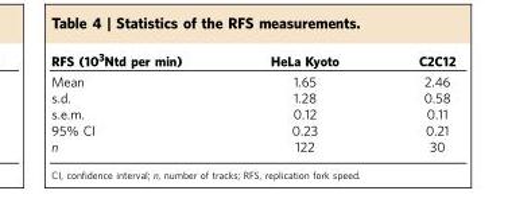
<table><thead><tr><td>RFS (10<sup>3</sup>Ntd per min)</td><td>HeLa Kyoto</td><td>C2C12</td></tr></thead><tbody><tr><td>Mean</td><td>1.65</td><td>2.46</td></tr><tr><td>s.d.</td><td>1.28</td><td>0.58</td></tr><tr><td>s.e.m.</td><td>0.12</td><td>0.11</td></tr><tr><td>95% CI</td><td>0.23</td><td>0.21</td></tr><tr><td>n</td><td>122</td><td>30</td></tr></tbody></table>